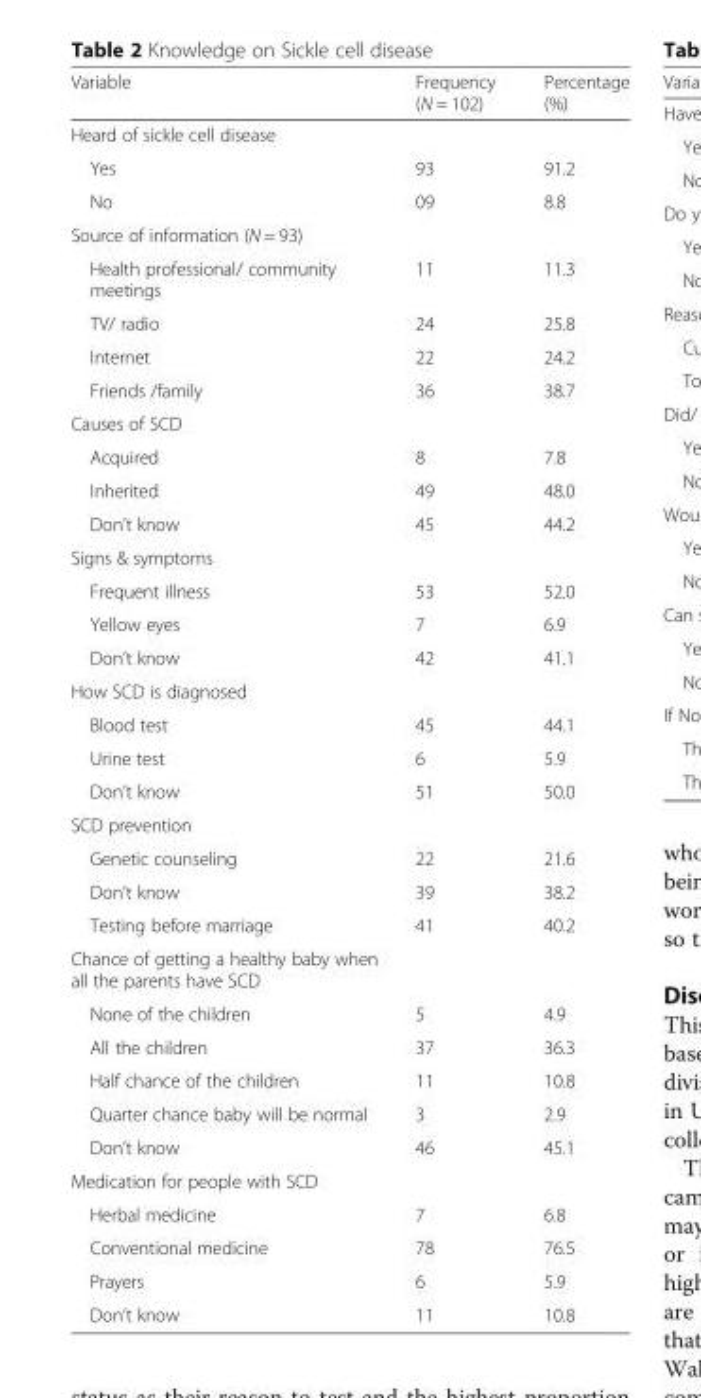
<table><thead><tr><td>Variable</td><td>Frequency (N = 102)</td><td>Percentage (%)</td></tr></thead><tbody><tr><td colspan="3">Heard of sickle cell disease</td></tr><tr><td>Yes</td><td>93</td><td>91.2</td></tr><tr><td>No</td><td>09</td><td>8.8</td></tr><tr><td colspan="3">Source of information (N = 93)</td></tr><tr><td>Health professional/ community meetings</td><td>11</td><td>11.3</td></tr><tr><td>TV/ radio</td><td>24</td><td>25.8</td></tr><tr><td>Internet</td><td>22</td><td>24.2</td></tr><tr><td>Friends /family</td><td>36</td><td>38.7</td></tr><tr><td colspan="3">Causes of SCD</td></tr><tr><td>Acquired</td><td>8</td><td>7.8</td></tr><tr><td>Inherited</td><td>49</td><td>48.0</td></tr><tr><td>Don’t know</td><td>45</td><td>44.2</td></tr><tr><td colspan="3">Signs &amp; symptoms</td></tr><tr><td>Frequent illness</td><td>53</td><td>52.0</td></tr><tr><td>Yellow eyes</td><td>7</td><td>6.9</td></tr><tr><td>Don’t know</td><td>42</td><td>41.1</td></tr><tr><td colspan="3">How SCD is diagnosed</td></tr><tr><td>Blood test</td><td>45</td><td>44.1</td></tr><tr><td>Urine test</td><td>6</td><td>5.9</td></tr><tr><td>Don’t know</td><td>51</td><td>50.0</td></tr><tr><td colspan="3">SCD prevention</td></tr><tr><td>Genetic counseling</td><td>22</td><td>21.6</td></tr><tr><td>Don’t know</td><td>39</td><td>38.2</td></tr><tr><td>Testing before marriage</td><td>41</td><td>40.2</td></tr><tr><td colspan="3">Chance of getting a healthy baby when all the parents have SCD</td></tr><tr><td>None of the children</td><td>5</td><td>4.9</td></tr><tr><td>All the children</td><td>37</td><td>36.3</td></tr><tr><td>Half chance of the children</td><td>11</td><td>10.8</td></tr><tr><td>Quarter chance baby will be normal</td><td>3</td><td>2.9</td></tr><tr><td>Don’t know</td><td>46</td><td>45.1</td></tr><tr><td colspan="3">Medication for people with SCD</td></tr><tr><td>Herbal medicine</td><td>7</td><td>6.8</td></tr><tr><td>Conventional medicine</td><td>78</td><td>76.5</td></tr><tr><td>Prayers</td><td>6</td><td>5.9</td></tr><tr><td>Don’t know</td><td>11</td><td>10.8</td></tr></tbody></table>